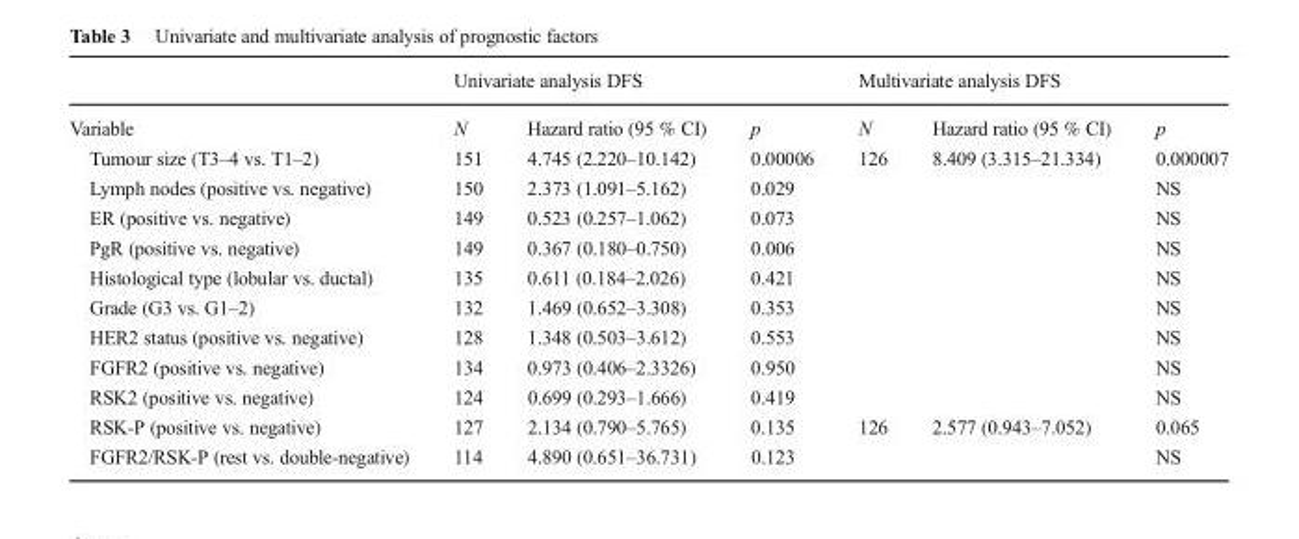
<table><thead><tr><td rowspan="2">Variable</td><td colspan="3">Univariate analysis DFS</td><td colspan="3">Multivariate analysis DFS</td></tr><tr><td>N</td><td>Hazard ratio (95 % CI)</td><td>p</td><td>N</td><td>Hazard ratio (95 % CI)</td><td>p</td></tr></thead><tbody><tr><td>Tumour size (T3–4 vs. T1–2)</td><td>151</td><td>4.745 (2.220–10.142)</td><td>0.00006</td><td>126</td><td>8.409 (3.315–21.334)</td><td>0.000007</td></tr><tr><td>Lymph nodes (positive vs. negative)</td><td>150</td><td>2.373 (1.091–5.162)</td><td>0.029</td><td></td><td></td><td>NS</td></tr><tr><td>ER (positive vs. negative)</td><td>149</td><td>0.523 (0.257–1.062)</td><td>0.073</td><td></td><td></td><td>NS</td></tr><tr><td>PgR (positive vs. negative)</td><td>149</td><td>0.367 (0.180–0.750)</td><td>0.006</td><td></td><td></td><td>NS</td></tr><tr><td>Histological type (lobular vs. ductal)</td><td>135</td><td>0.611 (0.184–2.026)</td><td>0.421</td><td></td><td></td><td>NS</td></tr><tr><td>Grade (G3 vs. G1–2)</td><td>132</td><td>1.469 (0.652–3.308)</td><td>0.353</td><td></td><td></td><td>NS</td></tr><tr><td>HER2 status (positive vs. negative)</td><td>128</td><td>1.348 (0.503–3.612)</td><td>0.553</td><td></td><td></td><td>NS</td></tr><tr><td>FGFR2 (positive vs. negative)</td><td>134</td><td>0.973 (0.406–2.3326)</td><td>0.950</td><td></td><td></td><td>NS</td></tr><tr><td>RSK2 (positive vs. negative)</td><td>124</td><td>0.699 (0.293–1.666)</td><td>0.419</td><td></td><td></td><td>NS</td></tr><tr><td>RSK-P (positive vs. negative)</td><td>127</td><td>2.134 (0.790–5.765)</td><td>0.135</td><td>126</td><td>2.577 (0.943–7.052)</td><td>0.065</td></tr><tr><td>FGFR2/RSK-P (rest vs. double-negative)</td><td>114</td><td>4.890 (0.651–36.731)</td><td>0.123</td><td></td><td></td><td>NS</td></tr></tbody></table>